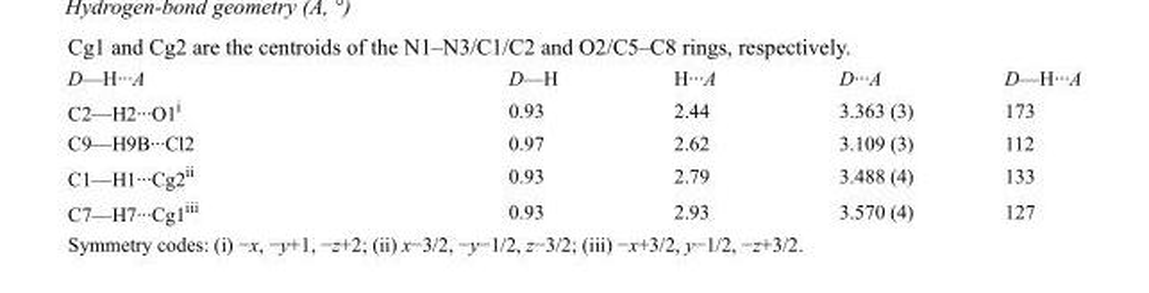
<table><tbody><tr><td>D—H···A</td><td>D—H</td><td>H···A</td><td>D···A</td><td>D—H···A</td></tr><tr><td>C2—H2···O1<sup>i</sup></td><td>0.93</td><td>2.44</td><td>3.363 (3)</td><td>173</td></tr><tr><td>C9—H9B···Cl2</td><td>0.97</td><td>2.62</td><td>3.109 (3)</td><td>112</td></tr><tr><td>C1—H1···Cg2<sup>ii</sup></td><td>0.93</td><td>2.79</td><td>3.488 (4)</td><td>133</td></tr><tr><td>C7—H7···Cg1<sup>iii</sup></td><td>0.93</td><td>2.93</td><td>3.570 (4)</td><td>127</td></tr></tbody></table>